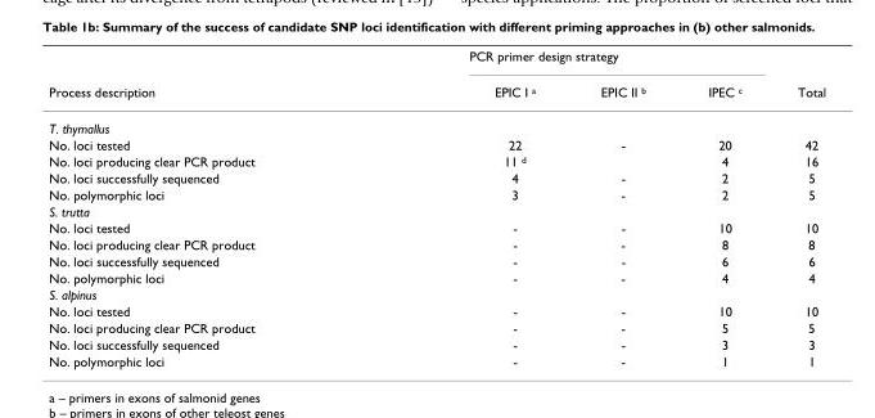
<table><thead><tr><td rowspan="2">Process description</td><td colspan="3">PCR primer design strategy</td><td rowspan="2">Total</td></tr><tr><td>EPIC I a</td><td>EPIC II b</td><td>IPEC c</td></tr></thead><tbody><tr><td colspan="5">T. thymallus</td></tr><tr><td>No. loci tested</td><td>22</td><td>-</td><td>20</td><td>42</td></tr><tr><td>No. loci producing clear PCR product</td><td>11 d</td><td></td><td>4</td><td>16</td></tr><tr><td>No. loci successfully sequenced</td><td>4</td><td>-</td><td>2</td><td>5</td></tr><tr><td>No. polymorphic loci</td><td>3</td><td>-</td><td>2</td><td>5</td></tr><tr><td colspan="5">S. trutta</td></tr><tr><td>No. loci tested</td><td>-</td><td>-</td><td>10</td><td>10</td></tr><tr><td>No. loci producing clear PCR product</td><td>-</td><td>-</td><td>8</td><td>8</td></tr><tr><td>No. loci successfully sequenced</td><td>-</td><td>-</td><td>6</td><td>6</td></tr><tr><td>No. polymorphic loci</td><td>-</td><td>-</td><td>4</td><td>4</td></tr><tr><td colspan="5">S. alpinus</td></tr><tr><td>No. loci tested</td><td>-</td><td>-</td><td>10</td><td>10</td></tr><tr><td>No. loci producing clear PCR product</td><td>-</td><td>-</td><td>5</td><td>5</td></tr><tr><td>No. loci successfully sequenced</td><td>-</td><td>-</td><td>3</td><td>3</td></tr><tr><td>No. polymorphic loci</td><td>-</td><td>-</td><td>1</td><td>1</td></tr></tbody></table>